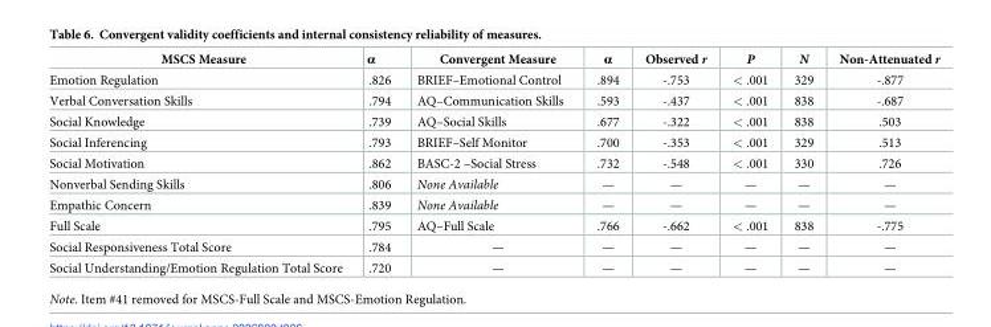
<table><thead><tr><td>MSCS Measure</td><td>α</td><td>Convergent Measure</td><td>α</td><td>Observed r</td><td>P</td><td>N</td><td>Non-Attenuated r</td></tr></thead><tbody><tr><td>Emotion Regulation</td><td>.826</td><td>BRIEF–Emotional Control</td><td>.894</td><td>-.753</td><td>&lt; .001</td><td>329</td><td>-.877</td></tr><tr><td>Verbal Conversation Skills</td><td>.794</td><td>AQ–Communication Skills</td><td>.593</td><td>-.437</td><td>&lt; .001</td><td>838</td><td>-.687</td></tr><tr><td>Social Knowledge</td><td>.739</td><td>AQ–Social Skills</td><td>.677</td><td>-.322</td><td>&lt; .001</td><td>838</td><td>.503</td></tr><tr><td>Social Inferencing</td><td>.793</td><td>BRIEF–Self Monitor</td><td>.700</td><td>-.353</td><td>&lt; .001</td><td>329</td><td>.513</td></tr><tr><td>Social Motivation</td><td>.862</td><td>BASC-2 –Social Stress</td><td>.732</td><td>-.548</td><td>&lt; .001</td><td>330</td><td>.726</td></tr><tr><td>Nonverbal Sending Skills</td><td>.806</td><td>None Available</td><td>—</td><td>—</td><td>—</td><td>—</td><td>—</td></tr><tr><td>Empathic Concern</td><td>.839</td><td>None Available</td><td>—</td><td>—</td><td>—</td><td>—</td><td>—</td></tr><tr><td>Full Scale</td><td>.795</td><td>AQ–Full Scale</td><td>.766</td><td>-.662</td><td>&lt; .001</td><td>838</td><td>-.775</td></tr><tr><td>Social Responsiveness Total Score</td><td>.784</td><td>—</td><td>—</td><td>—</td><td>—</td><td>—</td><td>—</td></tr><tr><td>Social Understanding/Emotion Regulation Total Score</td><td>.720</td><td>—</td><td>—</td><td>—</td><td>—</td><td>—</td><td>—</td></tr></tbody></table>